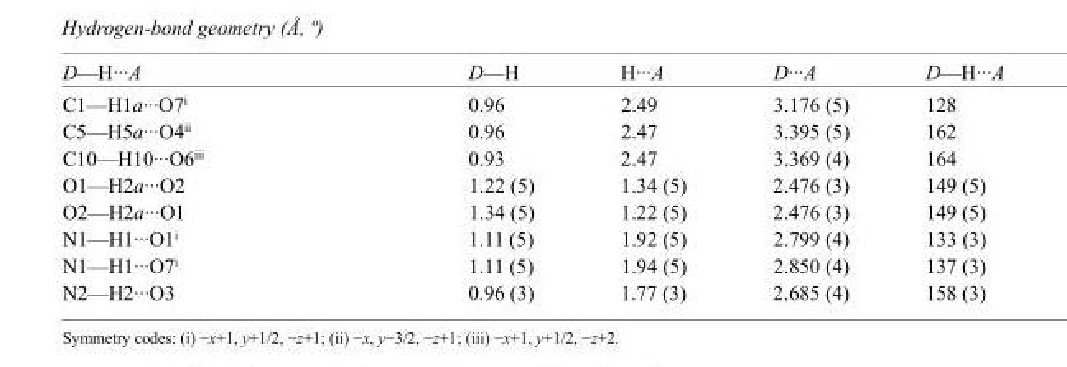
<table><tbody><tr><td>D—H···A</td><td>D—H</td><td>H···A</td><td>D···A</td><td>D—H···A</td></tr><tr><td>C1—H1a···O7<sup>i</sup></td><td>0.96</td><td>2.49</td><td>3.176 (5)</td><td>128</td></tr><tr><td>C5—H5a···O4<sup>ii</sup></td><td>0.96</td><td>2.47</td><td>3.395 (5)</td><td>162</td></tr><tr><td>C10—H10···O6<sup>iii</sup></td><td>0.93</td><td>2.47</td><td>3.369 (4)</td><td>164</td></tr><tr><td>O1—H2a···O2</td><td>1.22 (5)</td><td>1.34 (5)</td><td>2.476 (3)</td><td>149 (5)</td></tr><tr><td>O2—H2a···O1</td><td>1.34 (5)</td><td>1.22 (5)</td><td>2.476 (3)</td><td>149 (5)</td></tr><tr><td>N1—H1···O1<sup>i</sup></td><td>1.11 (5)</td><td>1.92 (5)</td><td>2.799 (4)</td><td>133 (3)</td></tr><tr><td>N1—H1···O7<sup>i</sup></td><td>1.11 (5)</td><td>1.94 (5)</td><td>2.850 (4)</td><td>137 (3)</td></tr><tr><td>N2—H2···O3</td><td>0.96 (3)</td><td>1.77 (3)</td><td>2.685 (4)</td><td>158 (3)</td></tr></tbody></table>